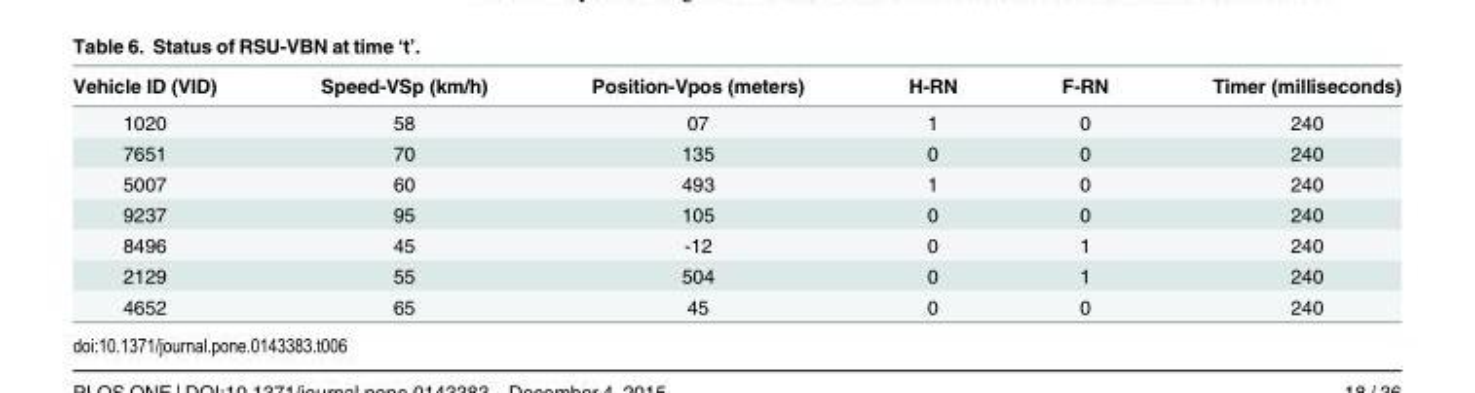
<table><thead><tr><td>Vehicle ID (VID)</td><td>Speed-VSp (km/h)</td><td>Position-Vpos (meters)</td><td>H-RN</td><td>F-RN</td><td>Timer (milliseconds)</td></tr></thead><tbody><tr><td>1020</td><td>58</td><td>07</td><td>1</td><td>0</td><td>240</td></tr><tr><td>7651</td><td>70</td><td>135</td><td>0</td><td>0</td><td>240</td></tr><tr><td>5007</td><td>60</td><td>493</td><td>1</td><td>0</td><td>240</td></tr><tr><td>9237</td><td>95</td><td>105</td><td>0</td><td>0</td><td>240</td></tr><tr><td>8496</td><td>45</td><td>-12</td><td>0</td><td>1</td><td>240</td></tr><tr><td>2129</td><td>55</td><td>504</td><td>0</td><td>1</td><td>240</td></tr><tr><td>4652</td><td>65</td><td>45</td><td>0</td><td>0</td><td>240</td></tr></tbody></table>